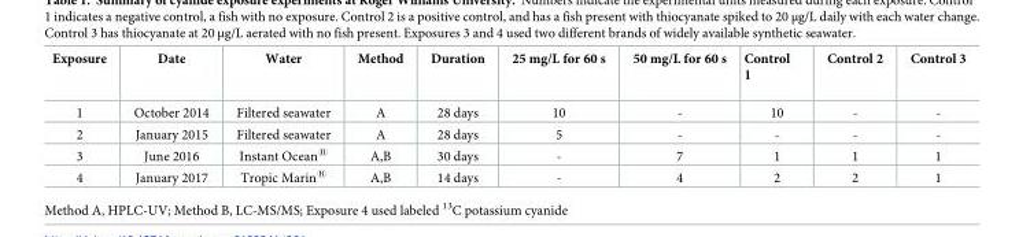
<table><thead><tr><td>Exposure</td><td>Date</td><td>Water</td><td>Method</td><td>Duration</td><td>25 mg/L for 60 s</td><td>50 mg/L for 60 s</td><td>Control 1</td><td>Control 2</td><td>Control 3</td></tr></thead><tbody><tr><td>1</td><td>October 2014</td><td>Filtered seawater</td><td>A</td><td>28 days</td><td>10</td><td>-</td><td>10</td><td>-</td><td>-</td></tr><tr><td>2</td><td>January 2015</td><td>Filtered seawater</td><td>A</td><td>28 days</td><td>5</td><td>-</td><td>-</td><td>-</td><td>-</td></tr><tr><td>3</td><td>June 2016</td><td>Instant Ocean<sup>®</sup></td><td>A,B</td><td>30 days</td><td>-</td><td>7</td><td>1</td><td>1</td><td>1</td></tr><tr><td>4</td><td>January 2017</td><td>Tropic Marin<sup>®</sup></td><td>A,B</td><td>14 days</td><td>-</td><td>4</td><td>2</td><td>2</td><td>1</td></tr></tbody></table>